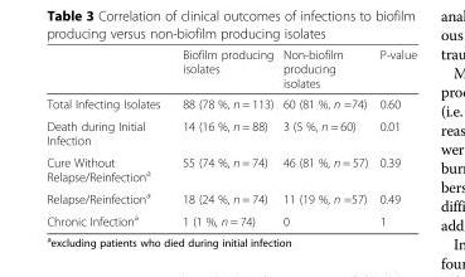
<table><thead><tr><td></td><td>Biofilm producing isolates</td><td>Non-biofilm producing isolates</td><td>P-value</td></tr></thead><tbody><tr><td>Total Infecting Isolates</td><td>88 (78 %, n = 113)</td><td>60 (81 %, n =74)</td><td>0.60</td></tr><tr><td>Death during Initial Infection</td><td>14 (16 %, n = 88)</td><td>3 (5 %, n = 60)</td><td>0.01</td></tr><tr><td>Cure Without Relapse/Reinfection<sup>a</sup></td><td>55 (74 %, n = 74)</td><td>46 (81 %, n = 57)</td><td>0.39</td></tr><tr><td>Relapse/Reinfection<sup>a</sup></td><td>18 (24 %, n = 74)</td><td>11 (19 %, n =57)</td><td>0.49</td></tr><tr><td>Chronic Infection<sup>a</sup></td><td>1 (1 %, n = 74)</td><td>0</td><td>1</td></tr></tbody></table>